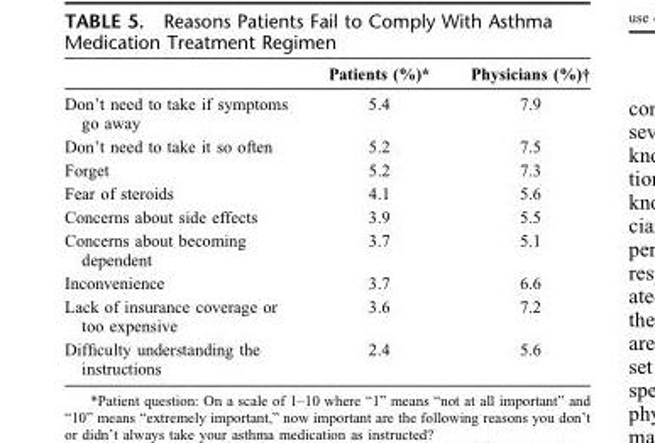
<table><thead><tr><td></td><td>Patients (%)*</td><td>Physicians (%)†</td></tr></thead><tbody><tr><td>Don’t need to take if symptoms go away</td><td>5.4</td><td>7.9</td></tr><tr><td>Don’t need to take it so often</td><td>5.2</td><td>7.5</td></tr><tr><td>Forget</td><td>5.2</td><td>7.3</td></tr><tr><td>Fear of steroids</td><td>4.1</td><td>5.6</td></tr><tr><td>Concerns about side effects</td><td>3.9</td><td>5.5</td></tr><tr><td>Concerns about becoming dependent</td><td>3.7</td><td>5.1</td></tr><tr><td>Inconvenience</td><td>3.7</td><td>6.6</td></tr><tr><td>Lack of insurance coverage or too expensive</td><td>3.6</td><td>7.2</td></tr><tr><td>Difficulty understanding the instructions</td><td>2.4</td><td>5.6</td></tr></tbody></table>